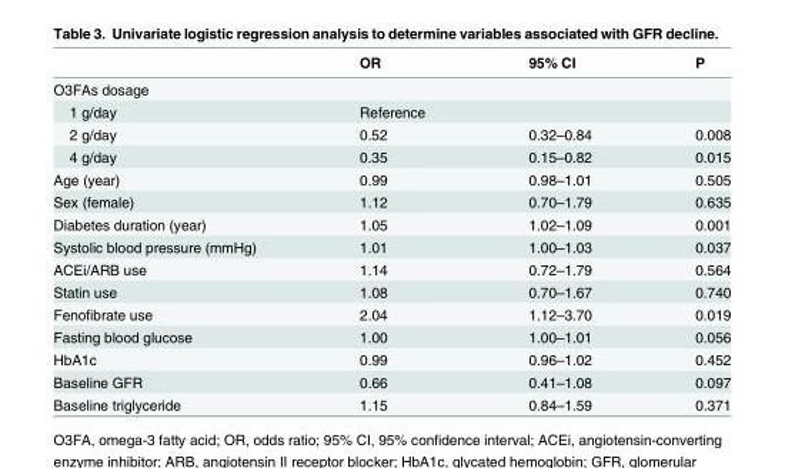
<table><thead><tr><td></td><td>OR</td><td>95% CI</td><td>P</td></tr></thead><tbody><tr><td colspan="4">O3FAs dosage</td></tr><tr><td>1 g/day</td><td>Reference</td><td></td><td></td></tr><tr><td>2 g/day</td><td>0.52</td><td>0.32–0.84</td><td>0.008</td></tr><tr><td>4 g/day</td><td>0.35</td><td>0.15–0.82</td><td>0.015</td></tr><tr><td>Age (year)</td><td>0.99</td><td>0.98–1.01</td><td>0.505</td></tr><tr><td>Sex (female)</td><td>1.12</td><td>0.70–1.79</td><td>0.635</td></tr><tr><td>Diabetes duration (year)</td><td>1.05</td><td>1.02–1.09</td><td>0.001</td></tr><tr><td>Systolic blood pressure (mmHg)</td><td>1.01</td><td>1.00–1.03</td><td>0.037</td></tr><tr><td>ACEi/ARB use</td><td>1.14</td><td>0.72–1.79</td><td>0.564</td></tr><tr><td>Statin use</td><td>1.08</td><td>0.70–1.67</td><td>0.740</td></tr><tr><td>Fenofibrate use</td><td>2.04</td><td>1.12–3.70</td><td>0.019</td></tr><tr><td>Fasting blood glucose</td><td>1.00</td><td>1.00–1.01</td><td>0.056</td></tr><tr><td>HbA1c</td><td>0.99</td><td>0.96–1.02</td><td>0.452</td></tr><tr><td>Baseline GFR</td><td>0.66</td><td>0.41–1.08</td><td>0.097</td></tr><tr><td>Baseline triglyceride</td><td>1.15</td><td>0.84–1.59</td><td>0.371</td></tr></tbody></table>